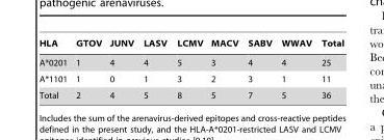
<table><thead><tr><td>HLA</td><td>GTOV</td><td>JUNV</td><td>LASV</td><td>LCMV</td><td>MACV</td><td>SABV</td><td>WWAV</td><td>Total</td></tr></thead><tbody><tr><td>A*0201</td><td>1</td><td>4</td><td>4</td><td>5</td><td>3</td><td>4</td><td>4</td><td>25</td></tr><tr><td>A*1101</td><td>1</td><td>0</td><td>1</td><td>3</td><td>2</td><td>3</td><td>1</td><td>11</td></tr><tr><td>Total</td><td>2</td><td>4</td><td>5</td><td>8</td><td>5</td><td>7</td><td>5</td><td>36</td></tr></tbody></table>